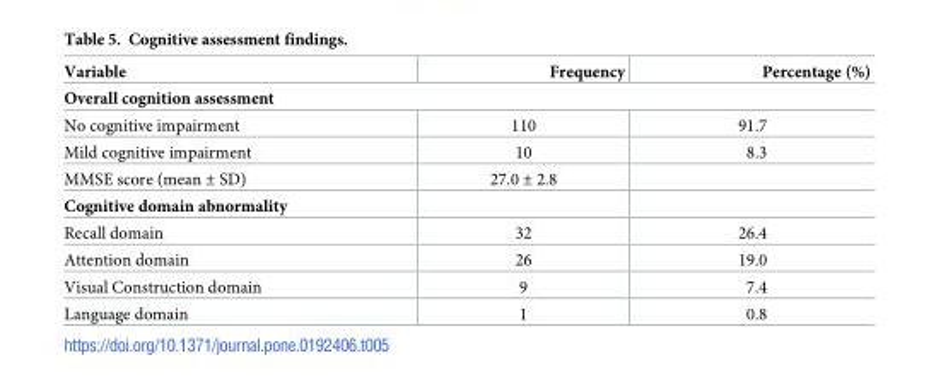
<table><thead><tr><td>Variable</td><td>Frequency</td><td>Percentage (%)</td></tr></thead><tbody><tr><td colspan="3">Overall cognition assessment</td></tr><tr><td>No cognitive impairment</td><td>110</td><td>91.7</td></tr><tr><td>Mild cognitive impairment</td><td>10</td><td>8.3</td></tr><tr><td>MMSE score (mean ± SD)</td><td>27.0 ± 2.8</td><td></td></tr><tr><td colspan="3">Cognitive domain abnormality</td></tr><tr><td>Recall domain</td><td>32</td><td>26.4</td></tr><tr><td>Attention domain</td><td>26</td><td>19.0</td></tr><tr><td>Visual Construction domain</td><td>9</td><td>7.4</td></tr><tr><td>Language domain</td><td>1</td><td>0.8</td></tr></tbody></table>